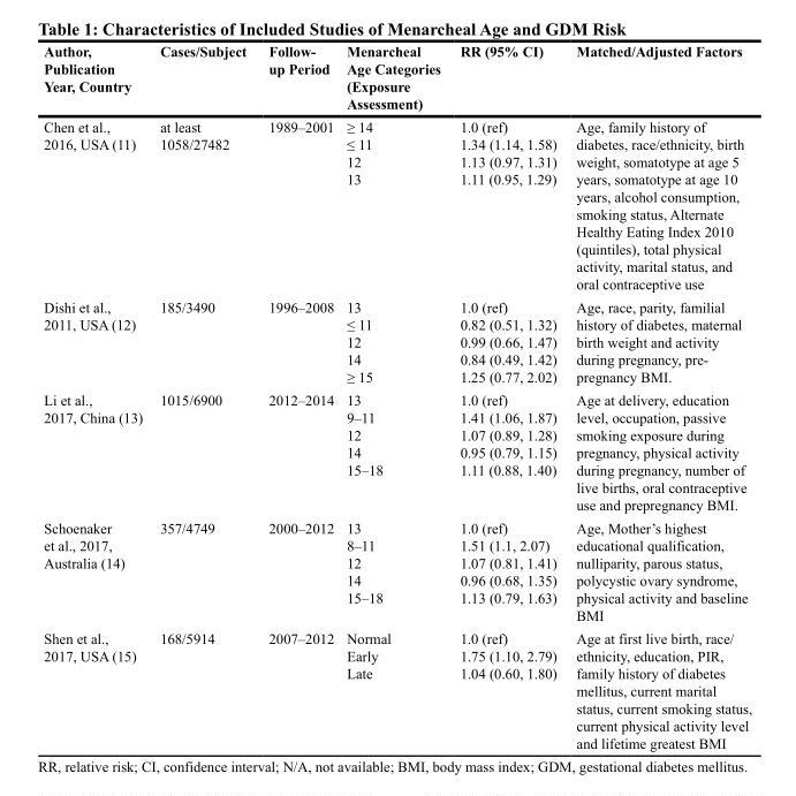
<table><thead><tr><td>Author, Publication Year, Country</td><td>Cases/Subject</td><td>Follow- up Period</td><td>Menarcheal Age Categories (Exposure Assessment)</td><td>RR (95% CI)</td><td>Matched/Adjusted Factors</td></tr></thead><tbody><tr><td>Chen et al., 2016, USA (11)</td><td>at least 1058/27482</td><td>1989–2001</td><td>≥ 14 ≤ 11 12 13</td><td>1.0 (ref) 1.34 (1.14, 1.58) 1.13 (0.97, 1.31) 1.11 (0.95, 1.29)</td><td>Age, family history of diabetes, race/ethnicity, birth weight, somatotype at age 5 years, somatotype at age 10 years, alcohol consumption, smoking status, Alternate Healthy Eating Index 2010 (quintiles), total physical activity, marital status, and oral contraceptive use</td></tr><tr><td>Dishi et al., 2011, USA (12)</td><td>185/3490</td><td>1996–2008</td><td>13 ≤ 11 12 14 ≥ 15</td><td>1.0 (ref) 0.82 (0.51, 1.32) 0.99 (0.66, 1.47) 0.84 (0.49, 1.42) 1.25 (0.77, 2.02)</td><td>Age, race, parity, familial history of diabetes, maternal birth weight and activity during pregnancy, pre- pregnancy BMI.</td></tr><tr><td>Li et al., 2017, China (13)</td><td>1015/6900</td><td>2012–2014</td><td>13 9–11 12 14 15–18</td><td>1.0 (ref) 1.41 (1.06, 1.87) 1.07 (0.89, 1.28) 0.95 (0.79, 1.15) 1.11 (0.88, 1.40)</td><td>Age at delivery, education level, occupation, passive smoking exposure during pregnancy, physical activity during pregnancy, number of live births, oral contraceptive use and prepregnancy BMI.</td></tr><tr><td>Schoenaker et al., 2017, Australia (14)</td><td>357/4749</td><td>2000–2012</td><td>13 8–11 12 14 15–18</td><td>1.0 (ref) 1.51 (1.1, 2.07) 1.07 (0.81, 1.41) 0.96 (0.68, 1.35) 1.13 (0.79, 1.63)</td><td>Age, Mother’s highest educational qualification, nulliparity, parous status, polycystic ovary syndrome, physical activity and baseline BMI</td></tr><tr><td>Shen et al., 2017, USA (15)</td><td>168/5914</td><td>2007–2012</td><td>Normal Early Late</td><td>1.0 (ref) 1.75 (1.10, 2.79) 1.04 (0.60, 1.80)</td><td>Age at first live birth, race/ ethnicity, education, PIR, family history of diabetes mellitus, current marital status, current smoking status, current physical activity level and lifetime greatest BMI</td></tr></tbody></table>